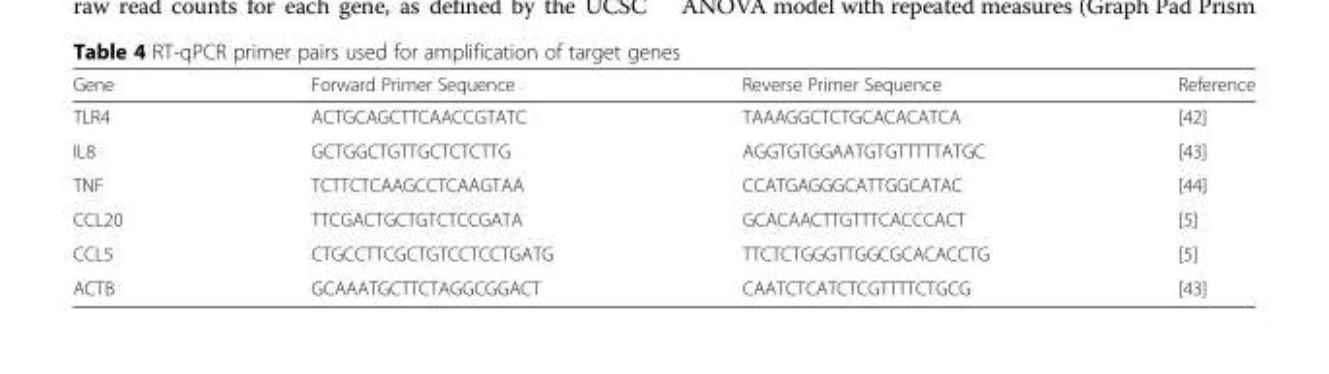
<table><thead><tr><td>Gene</td><td>Forward Primer Sequence</td><td>Reverse Primer Sequence</td><td>Reference</td></tr></thead><tbody><tr><td>TLR4</td><td>ACTGCAGCTTCAACCGTATC</td><td>TAAAGGCTCTGCACACATCA</td><td>[42]</td></tr><tr><td>IL8</td><td>GCTGGCTGTTGCTCTCTTG</td><td>AGGTGTGGAATGTGTTTTTATGC</td><td>[43]</td></tr><tr><td>TNF</td><td>TCTTCTCAAGCCTCAAGTAA</td><td>CCATGAGGGCATTGGCATAC</td><td>[44]</td></tr><tr><td>CCL20</td><td>TTCGACTGCTGTCTCCGATA</td><td>GCACAACTTGTTTCACCCACT</td><td>[5]</td></tr><tr><td>CCL5</td><td>CTGCCTTCGCTGTCCTCCTGATG</td><td>TTCTCTGGGTTGGCGCACACCTG</td><td>[5]</td></tr><tr><td>ACTB</td><td>GCAAATGCTTCTAGGCGGACT</td><td>CAATCTCATCTCGTTTTCTGCG</td><td>[43]</td></tr></tbody></table>